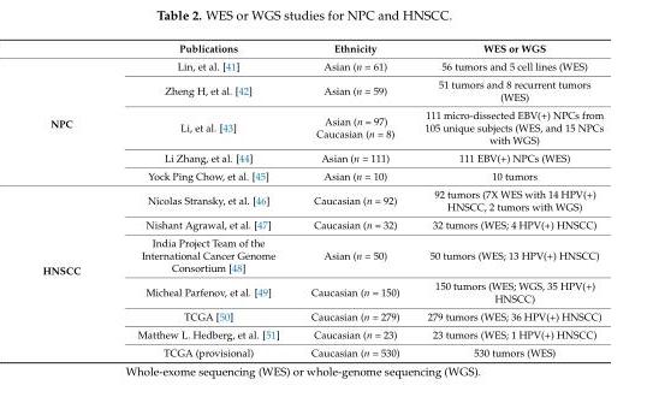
<table><thead><tr><td></td><td>Publications</td><td>Ethnicity</td><td>WES or WGS</td></tr></thead><tbody><tr><td rowspan="5">NPC</td><td>Lin, et al. [41]</td><td>Asian (n = 61)</td><td>56 tumors and 5 cell lines (WES)</td></tr><tr><td>Zheng H, et al. [42]</td><td>Asian (n = 59)</td><td>51 tumors and 8 recurrent tumors (WES)</td></tr><tr><td>Li, et al. [43]</td><td>Asian (n = 97) Caucasian (n = 8)</td><td>111 micro-dissected EBV(+) NPCs from 105 unique subjects (WES, and 15 NPCs with WGS)</td></tr><tr><td>Li Zhang, et al. [44]</td><td>Asian (n = 111)</td><td>111 EBV(+) NPCs (WES)</td></tr><tr><td>Yock Ping Chow, et al. [45]</td><td>Asian (n = 10)</td><td>10 tumors</td></tr><tr><td rowspan="7">HNSCC</td><td>Nicolas Stransky, et al. [46]</td><td>Caucasian (n = 92)</td><td>92 tumors (7X WES with 14 HPV(+) HNSCC, 2 tumors with WGS)</td></tr><tr><td>Nishant Agrawal, et al. [47]</td><td>Caucasian (n = 32)</td><td>32 tumors (WES; 4 HPV(+) HNSCC)</td></tr><tr><td>India Project Team of the International Cancer Genome Consortium [48]</td><td>Asian (n = 50)</td><td>50 tumors (WES; 13 HPV(+) HNSCC)</td></tr><tr><td>Micheal Parfenov, et al. [49]</td><td>Caucasian (n = 150)</td><td>150 tumors (WES; WGS, 35 HPV(+) HNSCC)</td></tr><tr><td>TCGA [50]</td><td>Caucasian (n = 279)</td><td>279 tumors (WES; 36 HPV(+) HNSCC)</td></tr><tr><td>Matthew L. Hedberg, et al. [51]</td><td>Caucasian (n = 23)</td><td>23 tumors (WES; 1 HPV(+) HNSCC)</td></tr><tr><td>TCGA (provisional)</td><td>Caucasian (n = 530)</td><td>530 tumors (WES)</td></tr></tbody></table>